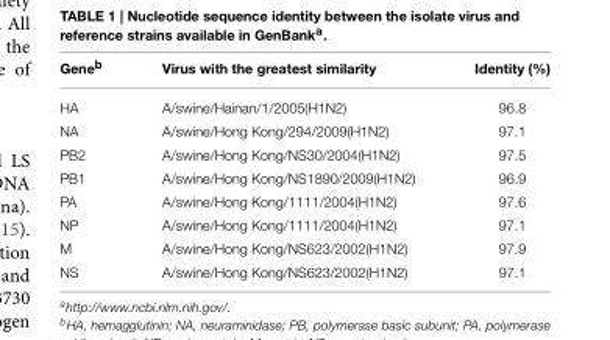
<table><thead><tr><td>Gene<sup>b</sup></td><td>Virus with the greatest similarity</td><td>Identity (%)</td></tr></thead><tbody><tr><td>HA</td><td>A/swine/Hainan/1/2005(H1N2)</td><td>96.8</td></tr><tr><td>NA</td><td>A/swine/Hong Kong/294/2009(H1N2)</td><td>97.1</td></tr><tr><td>PB2</td><td>A/swine/Hong Kong/NS30/2004(H1N2)</td><td>97.5</td></tr><tr><td>PB1</td><td>A/swine/Hong Kong/NS1890/2009(H1N2)</td><td>96.9</td></tr><tr><td>PA</td><td>A/swine/Hong Kong/1111/2004(H1N2)</td><td>97.6</td></tr><tr><td>NP</td><td>A/swine/Hong Kong/1111/2004(H1N2)</td><td>97.1</td></tr><tr><td>M</td><td>A/swine/Hong Kong/NS623/2002(H1N2)</td><td>97.9</td></tr><tr><td>NS</td><td>A/swine/Hong Kong/NS623/2002(H1N2)</td><td>97.1</td></tr></tbody></table>